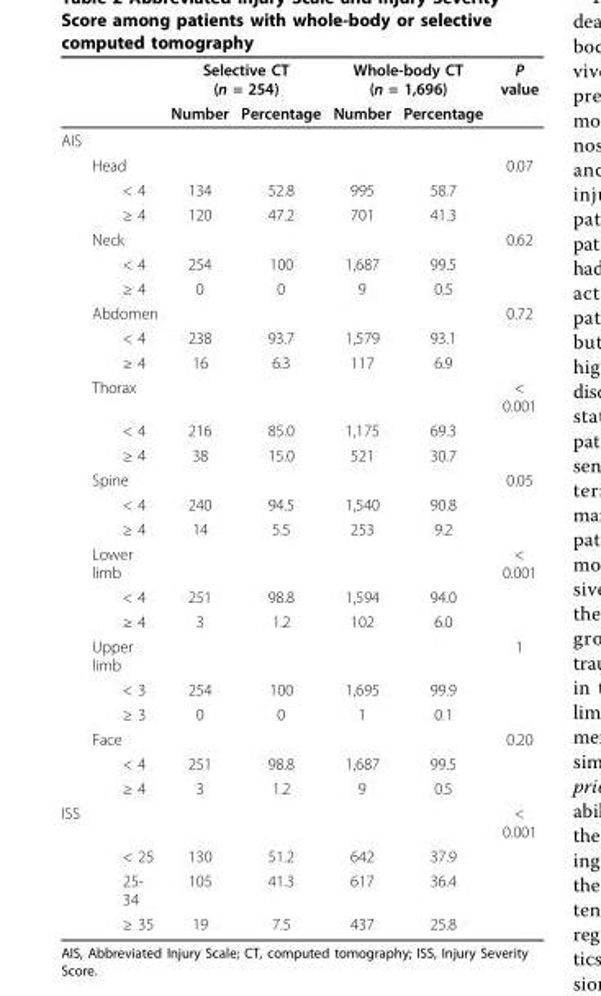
<table><thead><tr><td rowspan="2"></td><td colspan="2">Selective CT (n = 254)</td><td colspan="2">Whole-body CT (n = 1,696)</td><td rowspan="2">P value</td></tr><tr><td>Number</td><td>Percentage</td><td>Number</td><td>Percentage</td></tr></thead><tbody><tr><td colspan="6">AIS</td></tr><tr><td>Head</td><td></td><td></td><td></td><td></td><td>0.07</td></tr><tr><td>&lt; 4</td><td>134</td><td>52.8</td><td>995</td><td>58.7</td><td></td></tr><tr><td>≥ 4</td><td>120</td><td>47.2</td><td>701</td><td>41.3</td><td></td></tr><tr><td>Neck</td><td></td><td></td><td></td><td></td><td>0.62</td></tr><tr><td>&lt; 4</td><td>254</td><td>100</td><td>1,687</td><td>99.5</td><td></td></tr><tr><td>≥ 4</td><td>0</td><td>0</td><td>9</td><td>0.5</td><td></td></tr><tr><td>Abdomen</td><td></td><td></td><td></td><td></td><td>0.72</td></tr><tr><td>&lt; 4</td><td>238</td><td>93.7</td><td>1,579</td><td>93.1</td><td></td></tr><tr><td>≥ 4</td><td>16</td><td>6.3</td><td>117</td><td>6.9</td><td></td></tr><tr><td>Thorax</td><td></td><td></td><td></td><td></td><td>&lt; 0.001</td></tr><tr><td>&lt; 4</td><td>216</td><td>85.0</td><td>1,175</td><td>69.3</td><td></td></tr><tr><td>≥ 4</td><td>38</td><td>15.0</td><td>521</td><td>30.7</td><td></td></tr><tr><td>Spine</td><td></td><td></td><td></td><td></td><td>0.05</td></tr><tr><td>&lt; 4</td><td>240</td><td>94.5</td><td>1,540</td><td>90.8</td><td></td></tr><tr><td>≥ 4</td><td>14</td><td>5.5</td><td>253</td><td>9.2</td><td></td></tr><tr><td>Lower limb</td><td></td><td></td><td></td><td></td><td>&lt; 0.001</td></tr><tr><td>&lt; 4</td><td>251</td><td>98.8</td><td>1,594</td><td>94.0</td><td></td></tr><tr><td>≥ 4</td><td>3</td><td>1.2</td><td>102</td><td>6.0</td><td></td></tr><tr><td>Upper limb</td><td></td><td></td><td></td><td></td><td>1</td></tr><tr><td>&lt; 3</td><td>254</td><td>100</td><td>1,695</td><td>99.9</td><td></td></tr><tr><td>≥ 3</td><td>0</td><td>0</td><td>1</td><td>0.1</td><td></td></tr><tr><td>Face</td><td></td><td></td><td></td><td></td><td>0.20</td></tr><tr><td>&lt; 4</td><td>251</td><td>98.8</td><td>1,687</td><td>99.5</td><td></td></tr><tr><td>≥ 4</td><td>3</td><td>1.2</td><td>9</td><td>0.5</td><td></td></tr><tr><td>ISS</td><td></td><td></td><td></td><td></td><td>&lt; 0.001</td></tr><tr><td>&lt; 25</td><td>130</td><td>51.2</td><td>642</td><td>37.9</td><td></td></tr><tr><td>25- 34</td><td>105</td><td>41.3</td><td>617</td><td>36.4</td><td></td></tr><tr><td>≥ 35</td><td>19</td><td>7.5</td><td>437</td><td>25.8</td><td></td></tr></tbody></table>